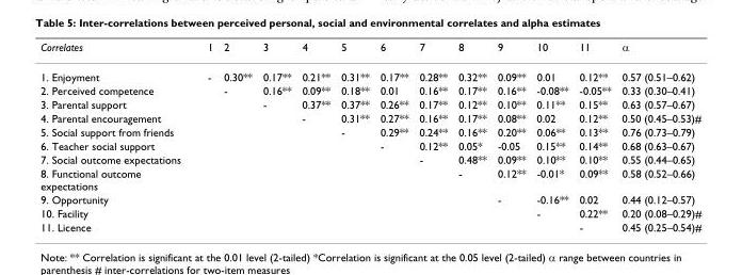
<table><thead><tr><td>Correlates</td><td>1</td><td>2</td><td>3</td><td>4</td><td>5</td><td>6</td><td>7</td><td>8</td><td>9</td><td>10</td><td>11</td><td>α</td></tr></thead><tbody><tr><td>1. Enjoyment</td><td>-</td><td>0.30**</td><td>0.17**</td><td>0.21**</td><td>0.31**</td><td>0.17**</td><td>0.28**</td><td>0.32**</td><td>0.09**</td><td>0.01</td><td>0.12**</td><td>0.57 (0.51–0.62)</td></tr><tr><td>2. Perceived competence</td><td></td><td>-</td><td>0.16**</td><td>0.09**</td><td>0.18**</td><td>0.01</td><td>0.16**</td><td>0.17**</td><td>0.16**</td><td>-0.08**</td><td>-0.05**</td><td>0.33 (0.30–0.41)</td></tr><tr><td>3. Parental support</td><td></td><td></td><td>-</td><td>0.37**</td><td>0.37**</td><td>0.26**</td><td>0.17**</td><td>0.12**</td><td>0.10**</td><td>0.11**</td><td>0.15**</td><td>0.63 (0.57–0.67)</td></tr><tr><td>4. Parental encouragement</td><td></td><td></td><td></td><td>-</td><td>0.31**</td><td>0.27**</td><td>0.16**</td><td>0.17**</td><td>0.08**</td><td>0.02</td><td>0.12**</td><td>0.50 (0.45–0.53)#</td></tr><tr><td>5. Social support from friends</td><td></td><td></td><td></td><td></td><td>-</td><td>0.29**</td><td>0.24**</td><td>0.16**</td><td>0.20**</td><td>0.06**</td><td>0.13**</td><td>0.76 (0.73–0.79)</td></tr><tr><td>6. Teacher social support</td><td></td><td></td><td></td><td></td><td></td><td>-</td><td>0.12**</td><td>0.05*</td><td>-0.05</td><td>0.15**</td><td>0.14**</td><td>0.68 (0.63–0.67)</td></tr><tr><td>7. Social outcome expectations</td><td></td><td></td><td></td><td></td><td></td><td></td><td>-</td><td>0.48**</td><td>0.09**</td><td>0.10**</td><td>0.10**</td><td>0.55 (0.44–0.65)</td></tr><tr><td>8. Functional outcome expectations</td><td></td><td></td><td></td><td></td><td></td><td></td><td></td><td>-</td><td>0.12**</td><td>-0.01*</td><td>0.09**</td><td>0.58 (0.52–0.66)</td></tr><tr><td>9. Opportunity</td><td></td><td></td><td></td><td></td><td></td><td></td><td></td><td></td><td>-</td><td>-0.16**</td><td>0.02</td><td>0.44 (0.12–0.57)</td></tr><tr><td>10. Facility</td><td></td><td></td><td></td><td></td><td></td><td></td><td></td><td></td><td></td><td>-</td><td>0.22**</td><td>0.20 (0.08–0.29)#</td></tr><tr><td>11. Licence</td><td></td><td></td><td></td><td></td><td></td><td></td><td></td><td></td><td></td><td></td><td>-</td><td>0.45 (0.25–0.54)#</td></tr></tbody></table>